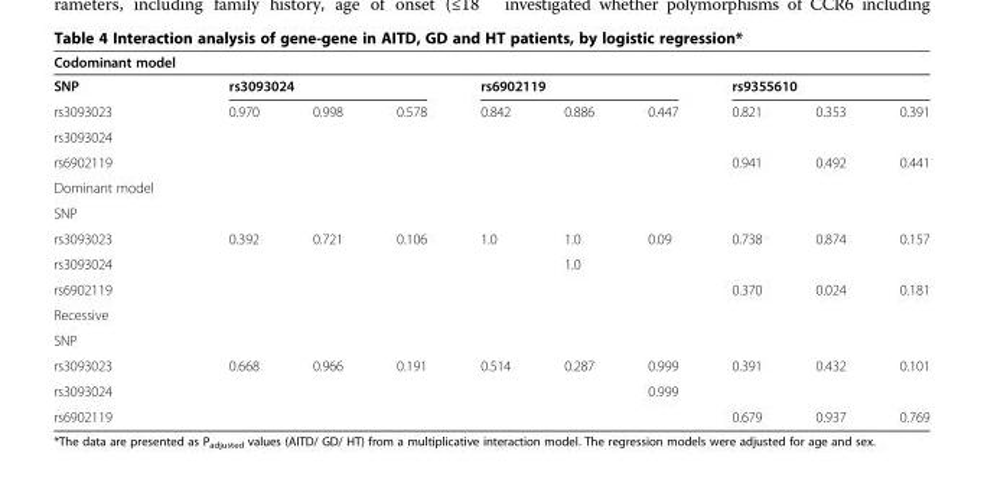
<table><thead><tr><td>Codominant model</td><td></td><td></td><td></td><td></td><td></td><td></td><td></td><td></td><td></td></tr></thead><tbody><tr><td>SNP</td><td colspan="3">rs3093024</td><td colspan="3">rs6902119</td><td colspan="3">rs9355610</td></tr><tr><td>rs3093023</td><td>0.970</td><td>0.998</td><td>0.578</td><td>0.842</td><td>0.886</td><td>0.447</td><td>0.821</td><td>0.353</td><td>0.391</td></tr><tr><td colspan="10">rs3093024</td></tr><tr><td>rs6902119</td><td></td><td></td><td></td><td></td><td></td><td></td><td>0.941</td><td>0.492</td><td>0.441</td></tr><tr><td colspan="10">Dominant model</td></tr><tr><td colspan="10">SNP</td></tr><tr><td>rs3093023</td><td>0.392</td><td>0.721</td><td>0.106</td><td>1.0</td><td>1.0</td><td>0.09</td><td>0.738</td><td>0.874</td><td>0.157</td></tr><tr><td>rs3093024</td><td></td><td></td><td></td><td></td><td>1.0</td><td></td><td></td><td></td><td></td></tr><tr><td>rs6902119</td><td></td><td></td><td></td><td></td><td></td><td></td><td>0.370</td><td>0.024</td><td>0.181</td></tr><tr><td colspan="10">Recessive</td></tr><tr><td colspan="10">SNP</td></tr><tr><td>rs3093023</td><td>0.668</td><td>0.966</td><td>0.191</td><td>0.514</td><td>0.287</td><td>0.999</td><td>0.391</td><td>0.432</td><td>0.101</td></tr><tr><td>rs3093024</td><td></td><td></td><td></td><td></td><td></td><td>0.999</td><td></td><td></td><td></td></tr><tr><td>rs6902119</td><td></td><td></td><td></td><td></td><td></td><td></td><td>0.679</td><td>0.937</td><td>0.769</td></tr></tbody></table>